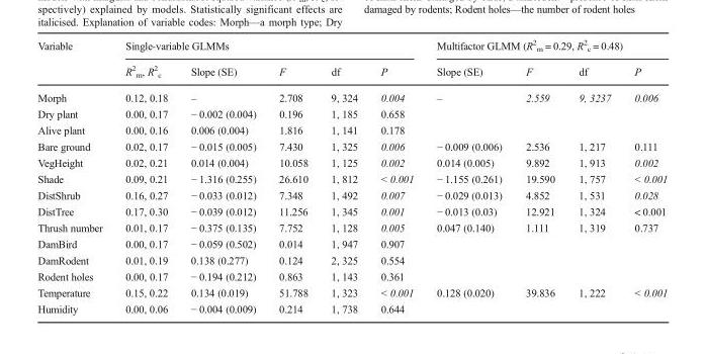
<table><thead><tr><td rowspan="2">Variable</td><td colspan="5">Single-variable GLMMs</td><td colspan="4">Multifactor GLMM (R<sup>2</sup> <sub>m</sub> = 0.29, R<sup>2</sup> <sub>c</sub> = 0.48)</td></tr><tr><td>R<sup>2</sup> <sub>m</sub>, R<sup>2</sup> <sub>c</sub></td><td>Slope (SE)</td><td>F</td><td>df</td><td>P</td><td>Slope (SE)</td><td>F</td><td>df</td><td>P</td></tr></thead><tbody><tr><td>Morph</td><td>0.12, 0.18</td><td>–</td><td>2.708</td><td>9, 324</td><td>0.004</td><td>–</td><td>2.559</td><td>9, 3237</td><td>0.006</td></tr><tr><td>Dry plant</td><td>0.00, 0.17</td><td>− 0.002 (0.004)</td><td>0.196</td><td>1, 185</td><td>0.658</td><td></td><td></td><td></td><td></td></tr><tr><td>Alive plant</td><td>0.00, 0.16</td><td>0.006 (0.004)</td><td>1.816</td><td>1, 141</td><td>0.178</td><td></td><td></td><td></td><td></td></tr><tr><td>Bare ground</td><td>0.02, 0.17</td><td>− 0.015 (0.005)</td><td>7.430</td><td>1, 325</td><td>0.006</td><td>− 0.009 (0.006)</td><td>2.536</td><td>1, 217</td><td>0.111</td></tr><tr><td>VegHeight</td><td>0.02, 0.21</td><td>0.014 (0.004)</td><td>10.058</td><td>1, 125</td><td>0.002</td><td>0.014 (0.005)</td><td>9.892</td><td>1, 913</td><td>0.002</td></tr><tr><td>Shade</td><td>0.09, 0.21</td><td>− 1.316 (0.255)</td><td>26.610</td><td>1, 812</td><td>&lt; 0.001</td><td>− 1.155 (0.261)</td><td>19.590</td><td>1, 757</td><td>&lt; 0.001</td></tr><tr><td>DistShrub</td><td>0.16, 0.27</td><td>− 0.033 (0.012)</td><td>7.348</td><td>1, 492</td><td>0.007</td><td>− 0.029 (0.013)</td><td>4.852</td><td>1, 531</td><td>0.028</td></tr><tr><td>DistTree</td><td>0.17, 0.30</td><td>− 0.039 (0.012)</td><td>11.256</td><td>1, 345</td><td>0.001</td><td>− 0.013 (0.03)</td><td>12.921</td><td>1, 324</td><td>&lt; 0.001</td></tr><tr><td>Thrush number</td><td>0.01, 0.17</td><td>− 0.375 (0.135)</td><td>7.752</td><td>1, 128</td><td>0.005</td><td>0.047 (0.140)</td><td>1.111</td><td>1, 319</td><td>0.737</td></tr><tr><td>DamBird</td><td>0.00, 0.17</td><td>− 0.059 (0.502)</td><td>0.014</td><td>1, 947</td><td>0.907</td><td></td><td></td><td></td><td></td></tr><tr><td>DamRodent</td><td>0.01, 0.19</td><td>0.138 (0.277)</td><td>0.124</td><td>2, 325</td><td>0.554</td><td></td><td></td><td></td><td></td></tr><tr><td>Rodent holes</td><td>0.00, 0.17</td><td>− 0.194 (0.212)</td><td>0.863</td><td>1, 143</td><td>0.361</td><td></td><td></td><td></td><td></td></tr><tr><td>Temperature</td><td>0.15, 0.22</td><td>0.134 (0.019)</td><td>51.788</td><td>1, 323</td><td>&lt; 0.001</td><td>0.128 (0.020)</td><td>39.836</td><td>1, 222</td><td>&lt; 0.001</td></tr><tr><td>Humidity</td><td>0.00, 0.06</td><td>− 0.004 (0.009)</td><td>0.214</td><td>1, 738</td><td>0.644</td><td></td><td></td><td></td><td></td></tr></tbody></table>